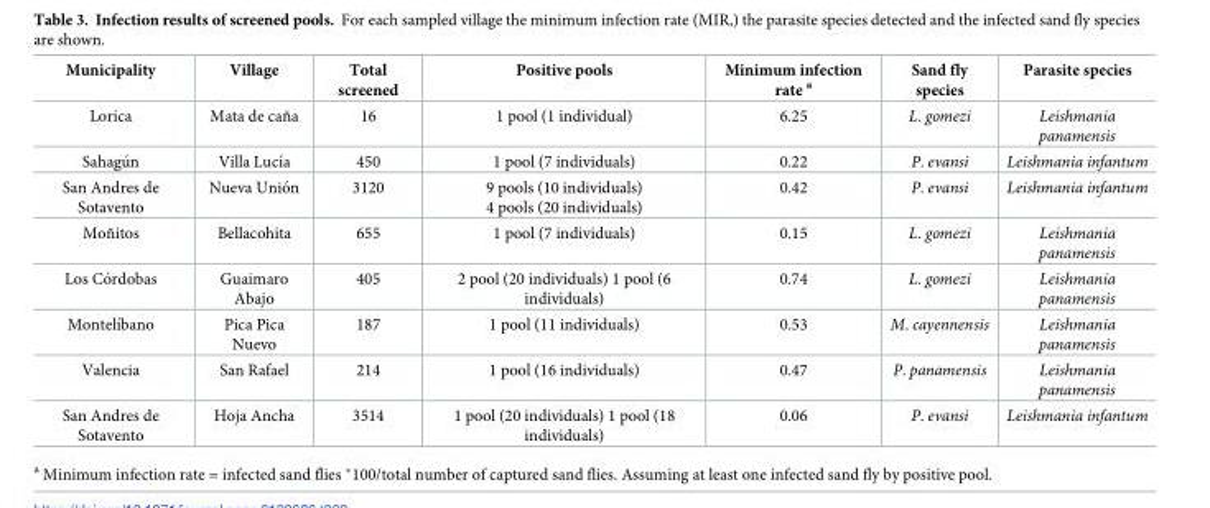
<table><thead><tr><td>Municipality</td><td>Village</td><td>Total screened</td><td>Positive pools</td><td>Minimum infection rate <sup>a</sup></td><td>Sand fly species</td><td>Parasite species</td></tr></thead><tbody><tr><td>Lorica</td><td>Mata de caña</td><td>16</td><td>1 pool (1 individual)</td><td>6.25</td><td>L. gomezi</td><td>Leishmania panamensis</td></tr><tr><td>Sahagu´n</td><td>Villa Lucı´a</td><td>450</td><td>1 pool (7 individuals)</td><td>0.22</td><td>P. evansi</td><td>Leishmania infantum</td></tr><tr><td>San Andres de Sotavento</td><td>Nueva Unio´n</td><td>3120</td><td>9 pools (10 individuals) 4 pools (20 individuals)</td><td>0.42</td><td>P. evansi</td><td>Leishmania infantum</td></tr><tr><td>Moñitos</td><td>Bellacohita</td><td>655</td><td>1 pool (7 individuals)</td><td>0.15</td><td>L. gomezi</td><td>Leishmania panamensis</td></tr><tr><td>Los Co´rdobas</td><td>Guaimaro Abajo</td><td>405</td><td>2 pool (20 individuals) 1 pool (6 individuals)</td><td>0.74</td><td>L. gomezi</td><td>Leishmania panamensis</td></tr><tr><td>Montelı´bano</td><td>Pica Pica Nuevo</td><td>187</td><td>1 pool (11 individuals)</td><td>0.53</td><td>M. cayennensis</td><td>Leishmania panamensis</td></tr><tr><td>Valencia</td><td>San Rafael</td><td>214</td><td>1 pool (16 individuals)</td><td>0.47</td><td>P. panamensis</td><td>Leishmania panamensis</td></tr><tr><td>San Andres de Sotavento</td><td>Hoja Ancha</td><td>3514</td><td>1 pool (20 individuals) 1 pool (18 individuals)</td><td>0.06</td><td>P. evansi</td><td>Leishmania infantum</td></tr></tbody></table>